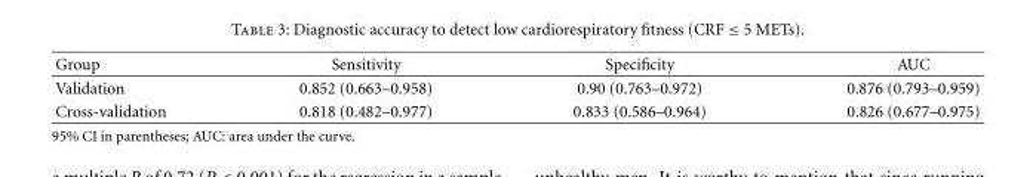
<table><thead><tr><td>Group</td><td>Sensitivity</td><td>Specificity</td><td>AUC</td></tr></thead><tbody><tr><td>Validation</td><td>0.852 (0.663–0.958)</td><td>0.90 (0.763–0.972)</td><td>0.876 (0.793–0.959)</td></tr><tr><td>Cross-validation</td><td>0.818 (0.482–0.977)</td><td>0.833 (0.586–0.964)</td><td>0.826 (0.677–0.975)</td></tr></tbody></table>